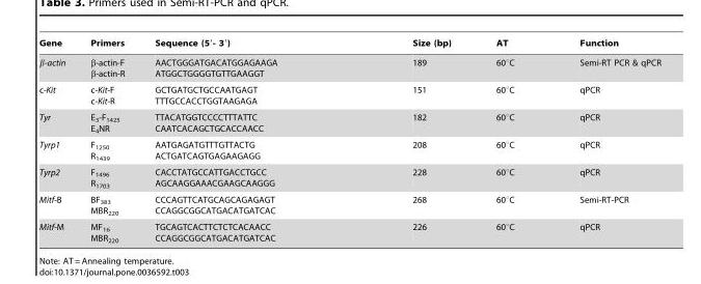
<table><thead><tr><td>Gene</td><td>Primers</td><td>Sequence (5′- 3′)</td><td>Size (bp)</td><td>AT</td><td>Function</td></tr></thead><tbody><tr><td>β-actin</td><td>β-actin-F β-actin-R</td><td>AACTGGGATGACATGGAGAAGA ATGGCTGGGGTGTTGAAGGT</td><td>189</td><td>60°C</td><td>Semi-RT PCR &amp; qPCR</td></tr><tr><td>c-Kit</td><td>c-Kit-F c-Kit-R</td><td>GCTGATGCTGCCAATGAGT TTTGCCACCTGGTAAGAGA</td><td>151</td><td>60°C</td><td>qPCR</td></tr><tr><td>Tyr</td><td>E<sub>3</sub>-F<sub>1425</sub> E<sub>4</sub>NR</td><td>TTACATGGTCCCCTTTATTC CAATCACAGCTGCACCAACC</td><td>182</td><td>60°C</td><td>qPCR</td></tr><tr><td>Tyrp1</td><td>F<sub>1250</sub> R<sub>1439</sub></td><td>AATGAGATGTTTGTTACTG ACTGATCAGTGAGAAGAGG</td><td>208</td><td>60°C</td><td>qPCR</td></tr><tr><td>Tyrp2</td><td>F<sub>1496</sub> R<sub>1703</sub></td><td>CACCTATGCCATTGACCTGCC AGCAAGGAAACGAAGCAAGGG</td><td>228</td><td>60°C</td><td>qPCR</td></tr><tr><td>Mitf-B</td><td>BF<sub>383</sub> MBR<sub>220</sub></td><td>CCCAGTTCATGCAGCAGAGAGT CCAGGCGGCATGACATGATCAC</td><td>268</td><td>60°C</td><td>Semi-RT-PCR</td></tr><tr><td>Mitf-M</td><td>MF<sub>16</sub> MBR<sub>220</sub></td><td>TGCAGTCACTTCTCTCACAACC CCAGGCGGCATGACATGATCAC</td><td>226</td><td>60°C</td><td>qPCR</td></tr></tbody></table>